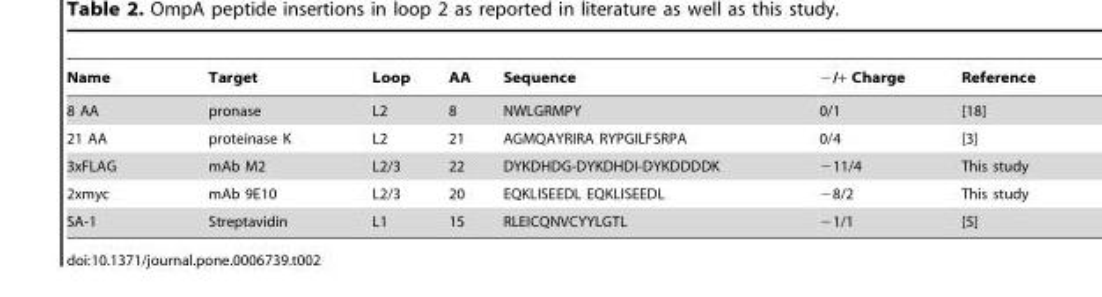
<table><thead><tr><td>Name</td><td>Target</td><td>Loop</td><td>AA</td><td>Sequence</td><td>−/+ Charge</td><td>Reference</td></tr></thead><tbody><tr><td>8 AA</td><td>pronase</td><td>L2</td><td>8</td><td>NWLGRMPY</td><td>0/1</td><td>[18]</td></tr><tr><td>21 AA</td><td>proteinase K</td><td>L2</td><td>21</td><td>AGMQAYRIRA RYPGILFSRPA</td><td>0/4</td><td>[3]</td></tr><tr><td>3xFLAG</td><td>mAb M2</td><td>L2/3</td><td>22</td><td>DYKDHDG-DYKDHDI-DYKDDDDK</td><td>−11/4</td><td>This study</td></tr><tr><td>2xmyc</td><td>mAb 9E10</td><td>L2/3</td><td>20</td><td>EQKLISEEDL EQKLISEEDL</td><td>−8/2</td><td>This study</td></tr><tr><td>SA-1</td><td>Streptavidin</td><td>L1</td><td>15</td><td>RLEICQNVCYYLGTL</td><td>−1/1</td><td>[5]</td></tr></tbody></table>